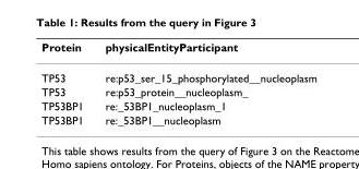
<table><thead><tr><td>Protein</td><td>physicalEntityParticipant</td></tr></thead><tbody><tr><td>TP53</td><td>re:p53_ser_15_phosphorylated__nucleoplasm</td></tr><tr><td>TP53</td><td>re:p53_protein__nucleoplasm_</td></tr><tr><td>TP53BP1</td><td>re:_53BP1_nucleoplasm_1</td></tr><tr><td>TP53BP1</td><td>re:_53BP1__nucleoplasm</td></tr></tbody></table>